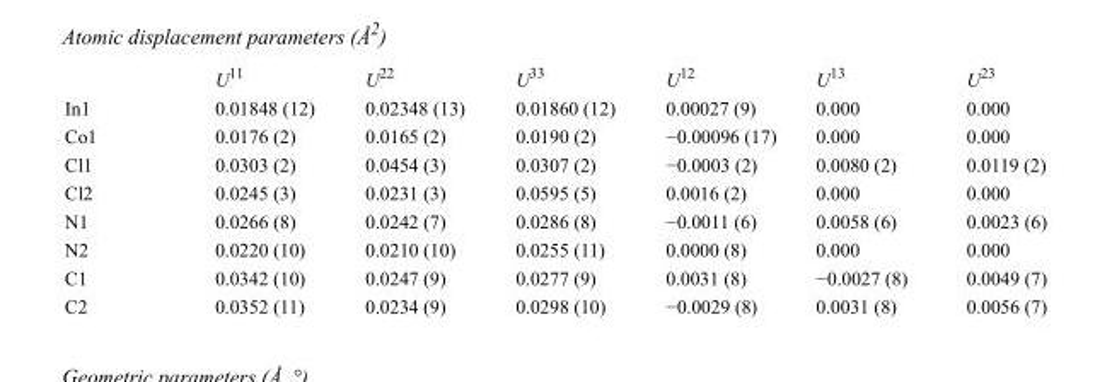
<table><thead><tr><td></td><td>U<sup>11</sup></td><td>U<sup>22</sup></td><td>U<sup>33</sup></td><td>U<sup>12</sup></td><td>U<sup>13</sup></td><td>U<sup>23</sup></td></tr></thead><tbody><tr><td>In1</td><td>0.01848 (12)</td><td>0.02348 (13)</td><td>0.01860 (12)</td><td>0.00027 (9)</td><td>0.000</td><td>0.000</td></tr><tr><td>Co1</td><td>0.0176 (2)</td><td>0.0165 (2)</td><td>0.0190 (2)</td><td>−0.00096 (17)</td><td>0.000</td><td>0.000</td></tr><tr><td>Cl1</td><td>0.0303 (2)</td><td>0.0454 (3)</td><td>0.0307 (2)</td><td>−0.0003 (2)</td><td>0.0080 (2)</td><td>0.0119 (2)</td></tr><tr><td>Cl2</td><td>0.0245 (3)</td><td>0.0231 (3)</td><td>0.0595 (5)</td><td>0.0016 (2)</td><td>0.000</td><td>0.000</td></tr><tr><td>N1</td><td>0.0266 (8)</td><td>0.0242 (7)</td><td>0.0286 (8)</td><td>−0.0011 (6)</td><td>0.0058 (6)</td><td>0.0023 (6)</td></tr><tr><td>N2</td><td>0.0220 (10)</td><td>0.0210 (10)</td><td>0.0255 (11)</td><td>0.0000 (8)</td><td>0.000</td><td>0.000</td></tr><tr><td>C1</td><td>0.0342 (10)</td><td>0.0247 (9)</td><td>0.0277 (9)</td><td>0.0031 (8)</td><td>−0.0027 (8)</td><td>0.0049 (7)</td></tr><tr><td>C2</td><td>0.0352 (11)</td><td>0.0234 (9)</td><td>0.0298 (10)</td><td>−0.0029 (8)</td><td>0.0031 (8)</td><td>0.0056 (7)</td></tr></tbody></table>